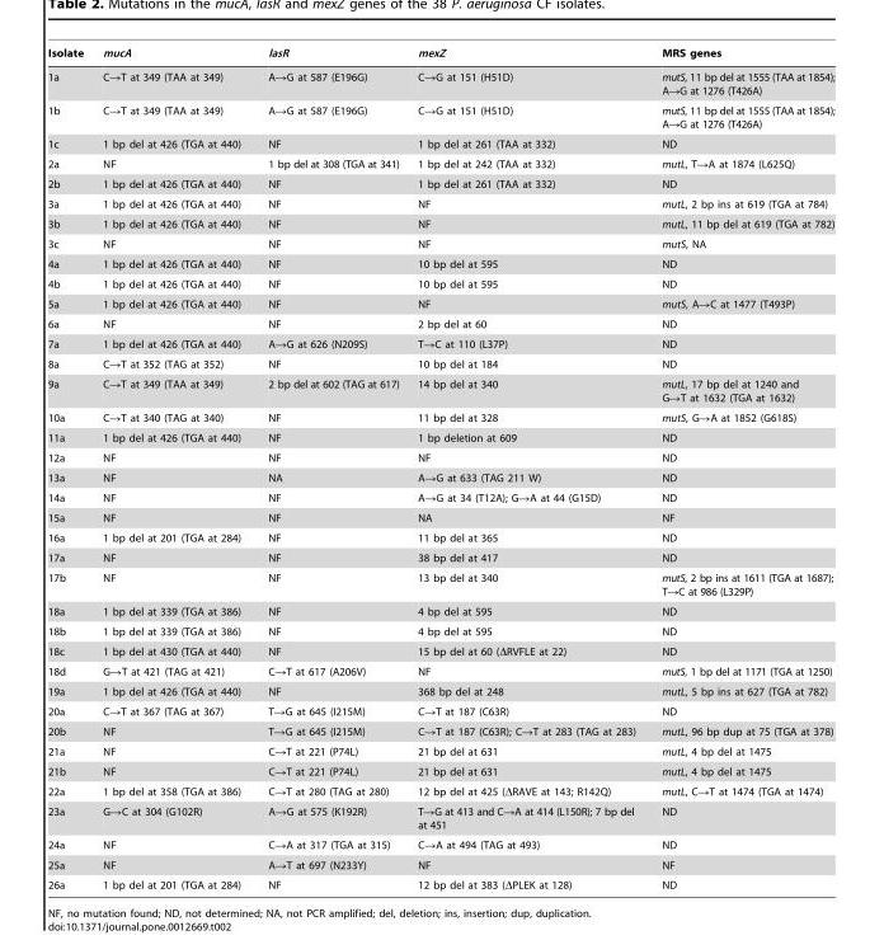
<table><thead><tr><td>Isolate</td><td>mucA</td><td>lasR</td><td>mexZ</td><td>MRS genes</td></tr></thead><tbody><tr><td>1a</td><td>C→T at 349 (TAA at 349)</td><td>A→G at 587 (E196G)</td><td>C→G at 151 (H51D)</td><td>mutS, 11 bp del at 1555 (TAA at 1854); A→G at 1276 (T426A)</td></tr><tr><td>1b</td><td>C→T at 349 (TAA at 349)</td><td>A→G at 587 (E196G)</td><td>C→G at 151 (H51D)</td><td>mutS, 11 bp del at 1555 (TAA at 1854); A→G at 1276 (T426A)</td></tr><tr><td>1c</td><td>1 bp del at 426 (TGA at 440)</td><td>NF</td><td>1 bp del at 261 (TAA at 332)</td><td>ND</td></tr><tr><td>2a</td><td>NF</td><td>1 bp del at 308 (TGA at 341)</td><td>1 bp del at 242 (TAA at 332)</td><td>mutL, T→A at 1874 (L625Q)</td></tr><tr><td>2b</td><td>1 bp del at 426 (TGA at 440)</td><td>NF</td><td>1 bp del at 261 (TAA at 332)</td><td>ND</td></tr><tr><td>3a</td><td>1 bp del at 426 (TGA at 440)</td><td>NF</td><td>NF</td><td>mutL, 2 bp ins at 619 (TGA at 784)</td></tr><tr><td>3b</td><td>1 bp del at 426 (TGA at 440)</td><td>NF</td><td>NF</td><td>mutL, 11 bp del at 619 (TGA at 782)</td></tr><tr><td>3c</td><td>NF</td><td>NF</td><td>NF</td><td>mutS, NA</td></tr><tr><td>4a</td><td>1 bp del at 426 (TGA at 440)</td><td>NF</td><td>10 bp del at 595</td><td>ND</td></tr><tr><td>4b</td><td>1 bp del at 426 (TGA at 440)</td><td>NF</td><td>10 bp del at 595</td><td>ND</td></tr><tr><td>5a</td><td>1 bp del at 426 (TGA at 440)</td><td>NF</td><td>NF</td><td>mutS, A→C at 1477 (T493P)</td></tr><tr><td>6a</td><td>NF</td><td>NF</td><td>2 bp del at 60</td><td>ND</td></tr><tr><td>7a</td><td>1 bp del at 426 (TGA at 440)</td><td>A→G at 626 (N209S)</td><td>T→C at 110 (L37P)</td><td>ND</td></tr><tr><td>8a</td><td>C→T at 352 (TAG at 352)</td><td>NF</td><td>10 bp del at 184</td><td>ND</td></tr><tr><td>9a</td><td>C→T at 349 (TAA at 349)</td><td>2 bp del at 602 (TAG at 617)</td><td>14 bp del at 340</td><td>mutL, 17 bp del at 1240 and G→T at 1632 (TGA at 1632)</td></tr><tr><td>10a</td><td>C→T at 340 (TAG at 340)</td><td>NF</td><td>11 bp del at 328</td><td>mutS, G→A at 1852 (G618S)</td></tr><tr><td>11a</td><td>1 bp del at 426 (TGA at 440)</td><td>NF</td><td>1 bp deletion at 609</td><td>ND</td></tr><tr><td>12a</td><td>NF</td><td>NF</td><td>NF</td><td>ND</td></tr><tr><td>13a</td><td>NF</td><td>NA</td><td>A→G at 633 (TAG 211 W)</td><td>ND</td></tr><tr><td>14a</td><td>NF</td><td>NF</td><td>A→G at 34 (T12A); G→A at 44 (G15D)</td><td>ND</td></tr><tr><td>15a</td><td>NF</td><td>NF</td><td>NA</td><td>NF</td></tr><tr><td>16a</td><td>1 bp del at 201 (TGA at 284)</td><td>NF</td><td>11 bp del at 365</td><td>ND</td></tr><tr><td>17a</td><td>NF</td><td>NF</td><td>38 bp del at 417</td><td>ND</td></tr><tr><td>17b</td><td>NF</td><td>NF</td><td>13 bp del at 340</td><td>mutS, 2 bp ins at 1611 (TGA at 1687); T→C at 986 (L329P)</td></tr><tr><td>18a</td><td>1 bp del at 339 (TGA at 386)</td><td>NF</td><td>4 bp del at 595</td><td>ND</td></tr><tr><td>18b</td><td>1 bp del at 339 (TGA at 386)</td><td>NF</td><td>4 bp del at 595</td><td>ND</td></tr><tr><td>18c</td><td>1 bp del at 430 (TGA at 440)</td><td>NF</td><td>15 bp del at 60 (ΔRVFLE at 22)</td><td>ND</td></tr><tr><td>18d</td><td>G→T at 421 (TAG at 421)</td><td>C→T at 617 (A206V)</td><td>NF</td><td>mutS, 1 bp del at 1171 (TGA at 1250)</td></tr><tr><td>19a</td><td>1 bp del at 426 (TGA at 440)</td><td>NF</td><td>368 bp del at 248</td><td>mutL, 5 bp ins at 627 (TGA at 782)</td></tr><tr><td>20a</td><td>C→T at 367 (TAG at 367)</td><td>T→G at 645 (I215M)</td><td>C→T at 187 (C63R)</td><td>ND</td></tr><tr><td>20b</td><td>NF</td><td>T→G at 645 (I215M)</td><td>C→T at 187 (C63R); C→T at 283 (TAG at 283)</td><td>mutL, 96 bp dup at 75 (TGA at 378)</td></tr><tr><td>21a</td><td>NF</td><td>C→T at 221 (P74L)</td><td>21 bp del at 631</td><td>mutL, 4 bp del at 1475</td></tr><tr><td>21b</td><td>NF</td><td>C→T at 221 (P74L)</td><td>21 bp del at 631</td><td>mutL, 4 bp del at 1475</td></tr><tr><td>22a</td><td>1 bp del at 358 (TGA at 386)</td><td>C→T at 280 (TAG at 280)</td><td>12 bp del at 425 (ΔRAVE at 143; R142Q)</td><td>mutL, C→T at 1474 (TGA at 1474)</td></tr><tr><td>23a</td><td>G→C at 304 (G102R)</td><td>A→G at 575 (K192R)</td><td>T→G at 413 and C→A at 414 (L150R); 7 bp del at 451</td><td>ND</td></tr><tr><td>24a</td><td>NF</td><td>C→A at 317 (TGA at 315)</td><td>C→A at 494 (TAG at 493)</td><td>ND</td></tr><tr><td>25a</td><td>NF</td><td>A→T at 697 (N233Y)</td><td>NF</td><td>NF</td></tr><tr><td>26a</td><td>1 bp del at 201 (TGA at 284)</td><td>NF</td><td>12 bp del at 383 (ΔPLEK at 128)</td><td>ND</td></tr></tbody></table>